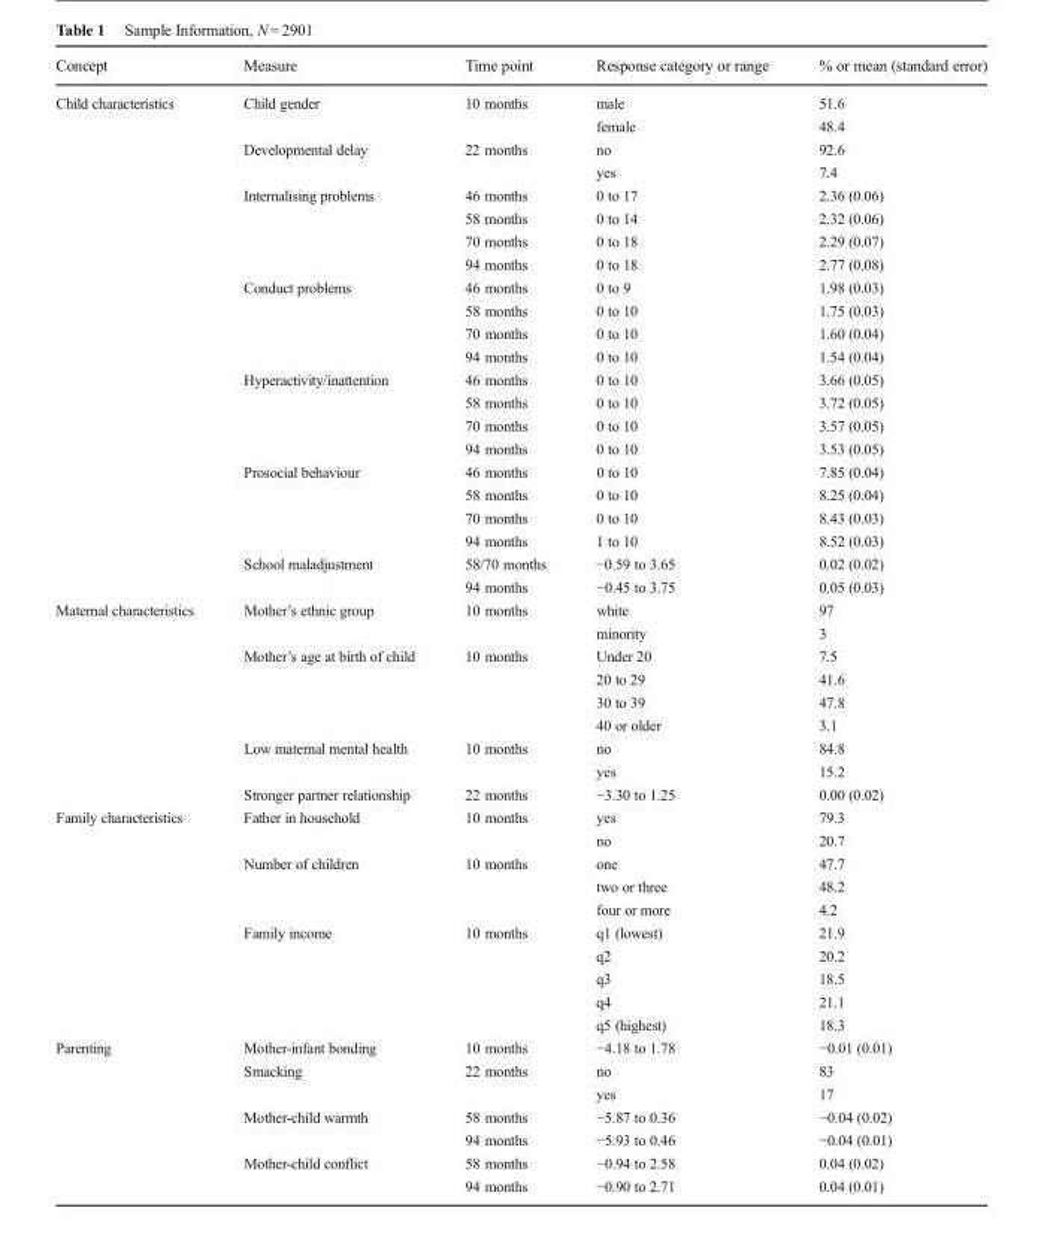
<table><thead><tr><td>Concept</td><td>Measure</td><td>Time point</td><td>Response category or range</td><td>% or mean (standard error)</td></tr></thead><tbody><tr><td rowspan="22">Child characteristics</td><td rowspan="2">Child gender</td><td rowspan="2">10 months</td><td>male</td><td>51.6</td></tr><tr><td>female</td><td>48.4</td></tr><tr><td rowspan="2">Developmental delay</td><td rowspan="2">22 months</td><td>no</td><td>92.6</td></tr><tr><td>yes</td><td>7.4</td></tr><tr><td rowspan="4">Internalising problems</td><td>46 months</td><td>0 to 17</td><td>2.36 (0.06)</td></tr><tr><td>58 months</td><td>0 to 14</td><td>2.32 (0.06)</td></tr><tr><td>70 months</td><td>0 to 18</td><td>2.29 (0.07)</td></tr><tr><td>94 months</td><td>0 to 18</td><td>2.77 (0.08)</td></tr><tr><td rowspan="4">Conduct problems</td><td>46 months</td><td>0 to 9</td><td>1.98 (0.03)</td></tr><tr><td>58 months</td><td>0 to 10</td><td>1.75 (0.03)</td></tr><tr><td>70 months</td><td>0 to 10</td><td>1.60 (0.04)</td></tr><tr><td>94 months</td><td>0 to 10</td><td>1.54 (0.04)</td></tr><tr><td rowspan="4">Hyperactivity/inattention</td><td>46 months</td><td>0 to 10</td><td>3.66 (0.05)</td></tr><tr><td>58 months</td><td>0 to 10</td><td>3.72 (0.05)</td></tr><tr><td>70 months</td><td>0 to 10</td><td>3.57 (0.05)</td></tr><tr><td>94 months</td><td>0 to 10</td><td>3.53 (0.05)</td></tr><tr><td rowspan="4">Prosocial behaviour</td><td>46 months</td><td>0 to 10</td><td>7.85 (0.04)</td></tr><tr><td>58 months</td><td>0 to 10</td><td>8.25 (0.04)</td></tr><tr><td>70 months</td><td>0 to 10</td><td>8.43 (0.03)</td></tr><tr><td>94 months</td><td>1 to 10</td><td>8.52 (0.03)</td></tr><tr><td rowspan="2">School maladjustment</td><td>58/70 months</td><td>−0.59 to 3.65</td><td>0.02 (0.02)</td></tr><tr><td>94 months</td><td>−0.45 to 3.75</td><td>0.05 (0.03)</td></tr><tr><td rowspan="9">Maternal characteristics</td><td rowspan="2">Mother’s ethnic group</td><td>10 months</td><td>white</td><td>97</td></tr><tr><td></td><td>minority</td><td>3</td></tr><tr><td rowspan="4">Mother’s age at birth of child</td><td rowspan="4">10 months</td><td>Under 20</td><td>7.5</td></tr><tr><td>20 to 29</td><td>41.6</td></tr><tr><td>30 to 39</td><td>47.8</td></tr><tr><td>40 or older</td><td>3.1</td></tr><tr><td rowspan="2">Low maternal mental health</td><td rowspan="2">10 months</td><td>no</td><td>84.8</td></tr><tr><td>yes</td><td>15.2</td></tr><tr><td>Stronger partner relationship</td><td>22 months</td><td>−3.30 to 1.25</td><td>0.00 (0.02)</td></tr><tr><td rowspan="10">Family characteristics</td><td rowspan="2">Father in household</td><td rowspan="2">10 months</td><td>yes</td><td>79.3</td></tr><tr><td>no</td><td>20.7</td></tr><tr><td rowspan="3">Number of children</td><td rowspan="3">10 months</td><td>one</td><td>47.7</td></tr><tr><td>two or three</td><td>48.2</td></tr><tr><td>four or more</td><td>4.2</td></tr><tr><td rowspan="5">Family income</td><td rowspan="5">10 months</td><td>q1 (lowest)</td><td>21.9</td></tr><tr><td>q2</td><td>20.2</td></tr><tr><td>q3</td><td>18.5</td></tr><tr><td>q4</td><td>21.1</td></tr><tr><td>q5 (highest)</td><td>18.3</td></tr><tr><td rowspan="7">Parenting</td><td>Mother-infant bonding</td><td>10 months</td><td>−4.18 to 1.78</td><td>−0.01 (0.01)</td></tr><tr><td rowspan="2">Smacking</td><td rowspan="2">22 months</td><td>no</td><td>83</td></tr><tr><td>yes</td><td>17</td></tr><tr><td rowspan="2">Mother-child warmth</td><td>58 months</td><td>−5.87 to 0.36</td><td>−0.04 (0.02)</td></tr><tr><td>94 months</td><td>−5.93 to 0.46</td><td>−0.04 (0.01)</td></tr><tr><td rowspan="2">Mother-child conflict</td><td>58 months</td><td>−0.94 to 2.58</td><td>0.04 (0.02)</td></tr><tr><td>94 months</td><td>−0.90 to 2.71</td><td>0.04 (0.01)</td></tr></tbody></table>